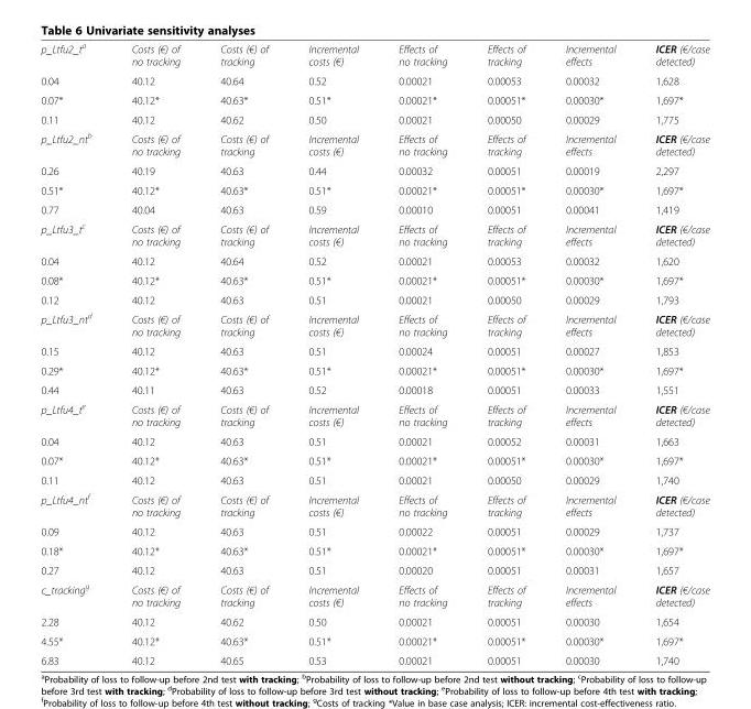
<table><tbody><tr><td>p_Ltfu2_t<sup>a</sup></td><td>Costs (€) of no tracking</td><td>Costs (€) of tracking</td><td>Incremental costs (€)</td><td>Effects of no tracking</td><td>Effects of tracking</td><td>Incremental effects</td><td>ICER (€/case detected)</td></tr><tr><td>0.04</td><td>40.12</td><td>40.64</td><td>0.52</td><td>0.00021</td><td>0.00053</td><td>0.00032</td><td>1,628</td></tr><tr><td>0.07*</td><td>40.12*</td><td>40.63*</td><td>0.51*</td><td>0.00021*</td><td>0.00051*</td><td>0.00030*</td><td>1,697*</td></tr><tr><td>0.11</td><td>40.12</td><td>40.62</td><td>0.50</td><td>0.00021</td><td>0.00050</td><td>0.00029</td><td>1,775</td></tr><tr><td>p_Ltfu2_nt<sup>b</sup></td><td>Costs (€) of no tracking</td><td>Costs (€) of tracking</td><td>Incremental costs (€)</td><td>Effects of no tracking</td><td>Effects of tracking</td><td>Incremental effects</td><td>ICER (€/case detected)</td></tr><tr><td>0.26</td><td>40.19</td><td>40.63</td><td>0.44</td><td>0.00032</td><td>0.00051</td><td>0.00019</td><td>2,297</td></tr><tr><td>0.51*</td><td>40.12*</td><td>40.63*</td><td>0.51*</td><td>0.00021*</td><td>0.00051*</td><td>0.00030*</td><td>1,697*</td></tr><tr><td>0.77</td><td>40.04</td><td>40.63</td><td>0.59</td><td>0.00010</td><td>0.00051</td><td>0.00041</td><td>1,419</td></tr><tr><td>p_Ltfu3_t<sup>c</sup></td><td>Costs (€) of no tracking</td><td>Costs (€) of tracking</td><td>Incremental costs (€)</td><td>Effects of no tracking</td><td>Effects of tracking</td><td>Incremental effects</td><td>ICER (€/case detected)</td></tr><tr><td>0.04</td><td>40.12</td><td>40.64</td><td>0.52</td><td>0.00021</td><td>0.00053</td><td>0.00032</td><td>1,620</td></tr><tr><td>0.08*</td><td>40.12*</td><td>40.63*</td><td>0.51*</td><td>0.00021*</td><td>0.00051*</td><td>0.00030*</td><td>1,697*</td></tr><tr><td>0.12</td><td>40.12</td><td>40.63</td><td>0.51</td><td>0.00021</td><td>0.00050</td><td>0.00029</td><td>1,793</td></tr><tr><td>p_Ltfu3_nt<sup>d</sup></td><td>Costs (€) of no tracking</td><td>Costs (€) of tracking</td><td>Incremental costs (€)</td><td>Effects of no tracking</td><td>Effects of tracking</td><td>Incremental effects</td><td>ICER (€/case detected)</td></tr><tr><td>0.15</td><td>40.12</td><td>40.63</td><td>0.51</td><td>0.00024</td><td>0.00051</td><td>0.00027</td><td>1,853</td></tr><tr><td>0.29*</td><td>40.12*</td><td>40.63*</td><td>0.51*</td><td>0.00021*</td><td>0.00051*</td><td>0.00030*</td><td>1,697*</td></tr><tr><td>0.44</td><td>40.11</td><td>40.63</td><td>0.52</td><td>0.00018</td><td>0.00051</td><td>0.00033</td><td>1,551</td></tr><tr><td>p_Ltfu4_t<sup>e</sup></td><td>Costs (€) of no tracking</td><td>Costs (€) of tracking</td><td>Incremental costs (€)</td><td>Effects of no tracking</td><td>Effects of tracking</td><td>Incremental effects</td><td>ICER (€/case detected)</td></tr><tr><td>0.04</td><td>40.12</td><td>40.63</td><td>0.51</td><td>0.00021</td><td>0.00052</td><td>0.00031</td><td>1,663</td></tr><tr><td>0.07*</td><td>40.12*</td><td>40.63*</td><td>0.51*</td><td>0.00021*</td><td>0.00051*</td><td>0.00030*</td><td>1,697*</td></tr><tr><td>0.11</td><td>40.12</td><td>40.63</td><td>0.51</td><td>0.00021</td><td>0.00050</td><td>0.00029</td><td>1,740</td></tr><tr><td>p_Ltfu4_nt<sup>f</sup></td><td>Costs (€) of no tracking</td><td>Costs (€) of tracking</td><td>Incremental costs (€)</td><td>Effects of no tracking</td><td>Effects of tracking</td><td>Incremental effects</td><td>ICER (€/case detected)</td></tr><tr><td>0.09</td><td>40.12</td><td>40.63</td><td>0.51</td><td>0.00022</td><td>0.00051</td><td>0.00029</td><td>1,737</td></tr><tr><td>0.18*</td><td>40.12*</td><td>40.63*</td><td>0.51*</td><td>0.00021*</td><td>0.00051*</td><td>0.00030*</td><td>1,697*</td></tr><tr><td>0.27</td><td>40.12</td><td>40.63</td><td>0.51</td><td>0.00020</td><td>0.00051</td><td>0.00031</td><td>1,657</td></tr><tr><td>c_tracking<sup>g</sup></td><td>Costs (€) of no tracking</td><td>Costs (€) of tracking</td><td>Incremental costs (€)</td><td>Effects of no tracking</td><td>Effects of tracking</td><td>Incremental effects</td><td>ICER (€/case detected)</td></tr><tr><td>2.28</td><td>40.12</td><td>40.62</td><td>0.50</td><td>0.00021</td><td>0.00051</td><td>0.00030</td><td>1,654</td></tr><tr><td>4.55*</td><td>40.12*</td><td>40.63*</td><td>0.51*</td><td>0.00021*</td><td>0.00051*</td><td>0.00030*</td><td>1,697*</td></tr><tr><td>6.83</td><td>40.12</td><td>40.65</td><td>0.53</td><td>0.00021</td><td>0.00051</td><td>0.00030</td><td>1,740</td></tr></tbody></table>